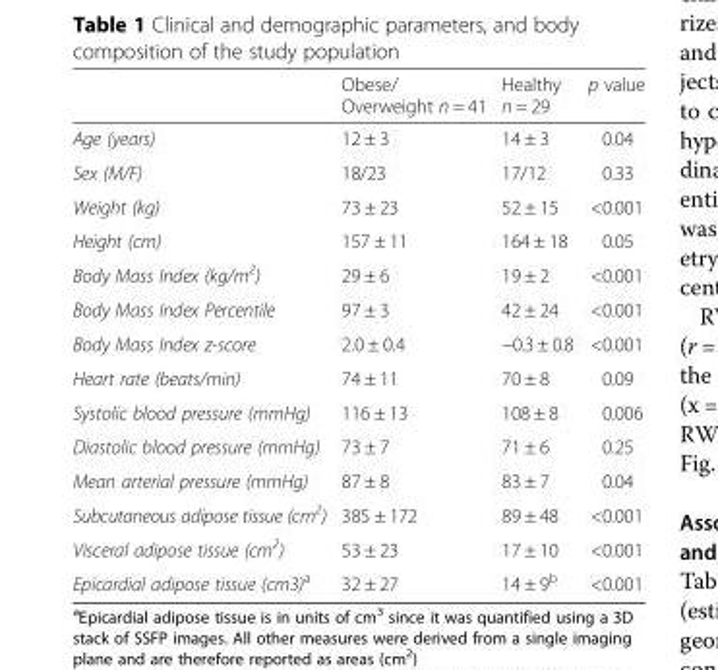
<table><thead><tr><td></td><td>Obese/ Overweight n = 41</td><td>Healthy n = 29</td><td>p value</td></tr></thead><tbody><tr><td>Age (years)</td><td>12 ± 3</td><td>14 ± 3</td><td>0.04</td></tr><tr><td>Sex (M/F)</td><td>18/23</td><td>17/12</td><td>0.33</td></tr><tr><td>Weight (kg)</td><td>73 ± 23</td><td>52 ± 15</td><td>&lt;0.001</td></tr><tr><td>Height (cm)</td><td>157 ± 11</td><td>164 ± 18</td><td>0.05</td></tr><tr><td>Body Mass Index (kg/m<sup>2</sup>)</td><td>29 ± 6</td><td>19 ± 2</td><td>&lt;0.001</td></tr><tr><td>Body Mass Index Percentile</td><td>97 ± 3</td><td>42 ± 24</td><td>&lt;0.001</td></tr><tr><td>Body Mass Index z-score</td><td>2.0 ± 0.4</td><td>−0.3 ± 0.8</td><td>&lt;0.001</td></tr><tr><td>Heart rate (beats/min)</td><td>74 ± 11</td><td>70 ± 8</td><td>0.09</td></tr><tr><td>Systolic blood pressure (mmHg)</td><td>116 ± 13</td><td>108 ± 8</td><td>0.006</td></tr><tr><td>Diastolic blood pressure (mmHg)</td><td>73 ± 7</td><td>71 ± 6</td><td>0.25</td></tr><tr><td>Mean arterial pressure (mmHg)</td><td>87 ± 8</td><td>83 ± 7</td><td>0.04</td></tr><tr><td>Subcutaneous adipose tissue (cm<sup>2</sup>)</td><td>385 ± 172</td><td>89 ± 48</td><td>&lt;0.001</td></tr><tr><td>Visceral adipose tissue (cm<sup>2</sup>)</td><td>53 ± 23</td><td>17 ± 10</td><td>&lt;0.001</td></tr><tr><td>Epicardial adipose tissue (cm3)<sup>a</sup></td><td>32 ± 27</td><td>14 ± 9<sup>b</sup></td><td>&lt;0.001</td></tr></tbody></table>